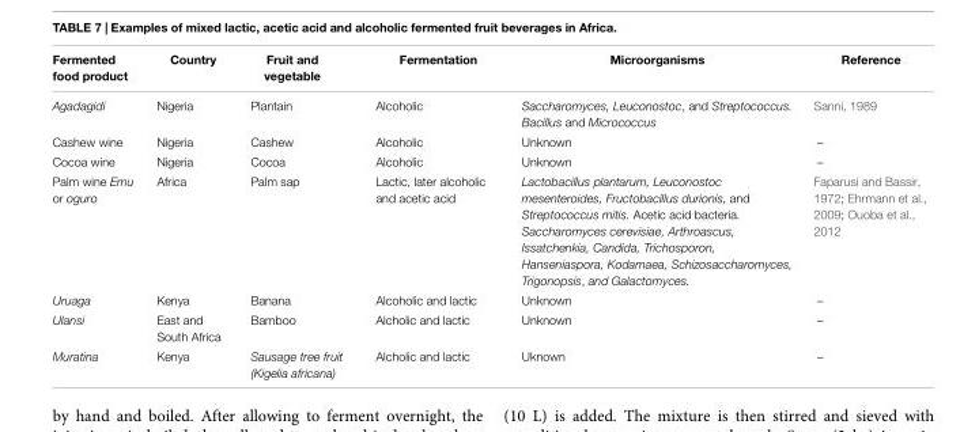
<table><thead><tr><td>Fermented food product</td><td>Country</td><td>Fruit and vegetable</td><td>Fermentation</td><td>Microorganisms</td><td>Reference</td></tr></thead><tbody><tr><td>Agadagidi</td><td>Nigeria</td><td>Plantain</td><td>Alcoholic</td><td>Saccharomyces, Leuconostoc, and Streptococcus. Bacillus and Micrococcus</td><td>Sanni, 1989</td></tr><tr><td>Cashew wine</td><td>Nigeria</td><td>Cashew</td><td>Alcoholic</td><td>Unknown</td><td>–</td></tr><tr><td>Cocoa wine</td><td>Nigeria</td><td>Cocoa</td><td>Alcoholic</td><td>Unknown</td><td>–</td></tr><tr><td>Palm wine Emu or oguro</td><td>Africa</td><td>Palm sap</td><td>Lactic, later alcoholic and acetic acid</td><td>Lactobacillus plantarum, Leuconostoc mesenteroides, Fructobacillus durionis, and Streptococcus mitis. Acetic acid bacteria. Saccharomyces cerevisiae, Arthroascus, Issatchenkia, Candida, Trichosporon, Hanseniaspora, Kodamaea, Schizosaccharomyces, Trigonopsis, and Galactomyces.</td><td>Faparusi and Bassir, 1972; Ehrmann et al., 2009; Ouoba et al., 2012</td></tr><tr><td>Uruaga</td><td>Kenya</td><td>Banana</td><td>Alcoholic and lactic</td><td>Unknown</td><td>–</td></tr><tr><td>Ulansi</td><td>East and South Africa</td><td>Bamboo</td><td>Alcholic and lactic</td><td>Unknown</td><td>–</td></tr><tr><td>Muratina</td><td>Kenya</td><td>Sausage tree fruit (Kigelia africana)</td><td>Alcholic and lactic</td><td>Uknown</td><td>–</td></tr></tbody></table>